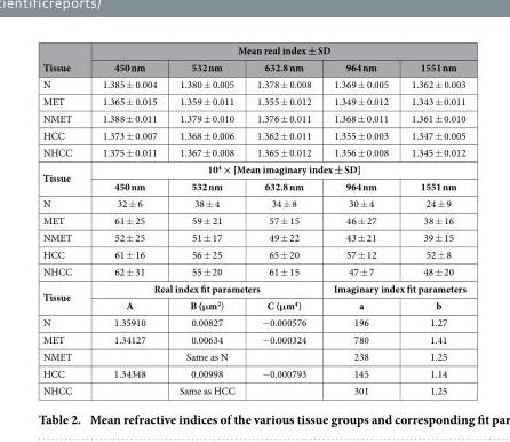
<table><thead><tr><td rowspan="2">Tissue</td><td colspan="5">Mean real index ± SD</td></tr><tr><td>450 nm</td><td>532 nm</td><td>632.8 nm</td><td>964 nm</td><td>1551 nm</td></tr></thead><tbody><tr><td>N</td><td>1.385 ± 0.004</td><td>1.380 ± 0.005</td><td>1.378 ± 0.008</td><td>1.369 ± 0.005</td><td>1.362 ± 0.003</td></tr><tr><td>MET</td><td>1.365 ± 0.015</td><td>1.359 ± 0.011</td><td>1.355 ± 0.012</td><td>1.349 ± 0.012</td><td>1.343 ± 0.011</td></tr><tr><td>NMET</td><td>1.388 ± 0.011</td><td>1.379 ± 0.010</td><td>1.376 ± 0.011</td><td>1.368 ± 0.011</td><td>1.361 ± 0.010</td></tr><tr><td>HCC</td><td>1.373 ± 0.007</td><td>1.368 ± 0.006</td><td>1.362 ± 0.011</td><td>1.355 ± 0.003</td><td>1.347 ± 0.005</td></tr><tr><td>NHCC</td><td>1.375 ± 0.011</td><td>1.367 ± 0.008</td><td>1.365 ± 0.012</td><td>1.356 ± 0.008</td><td>1.345 ± 0.012</td></tr><tr><td rowspan="2">Tissue</td><td colspan="5">10<sup>4</sup> × [Mean imaginary index ± SD]</td></tr><tr><td>450 nm</td><td>532 nm</td><td>632.8 nm</td><td>964 nm</td><td>1551 nm</td></tr><tr><td>N</td><td>32 ± 6</td><td>38 ± 4</td><td>34 ± 8</td><td>30 ± 4</td><td>24 ± 9</td></tr><tr><td>MET</td><td>61 ± 25</td><td>59 ± 21</td><td>57 ± 15</td><td>46 ± 27</td><td>38 ± 16</td></tr><tr><td>NMET</td><td>52 ± 25</td><td>51 ± 17</td><td>49 ± 22</td><td>43 ± 21</td><td>39 ± 15</td></tr><tr><td>HCC</td><td>61 ± 16</td><td>56 ± 25</td><td>65 ± 20</td><td>57 ± 12</td><td>52 ± 8</td></tr><tr><td>NHCC</td><td>62 ± 31</td><td>55 ± 20</td><td>61 ± 15</td><td>47 ± 7</td><td>48 ± 20</td></tr><tr><td rowspan="2">Tissue</td><td colspan="3">Real index fit parameters</td><td colspan="2">Imaginary index fit parameters</td></tr><tr><td>A</td><td>B (μm<sup>2</sup>)</td><td>C (μm<sup>4</sup>)</td><td>a</td><td>b</td></tr><tr><td>N</td><td>1.35910</td><td>0.00827</td><td>− 0.000576</td><td>196</td><td>1.27</td></tr><tr><td>MET</td><td>1.34127</td><td>0.00634</td><td>− 0.000324</td><td>780</td><td>1.41</td></tr><tr><td>NMET</td><td></td><td>Same as N</td><td></td><td>238</td><td>1.25</td></tr><tr><td>HCC</td><td>1.34348</td><td>0.00998</td><td>− 0.000793</td><td>145</td><td>1.14</td></tr><tr><td>NHCC</td><td></td><td>Same as HCC</td><td></td><td>301</td><td>1.25</td></tr></tbody></table>